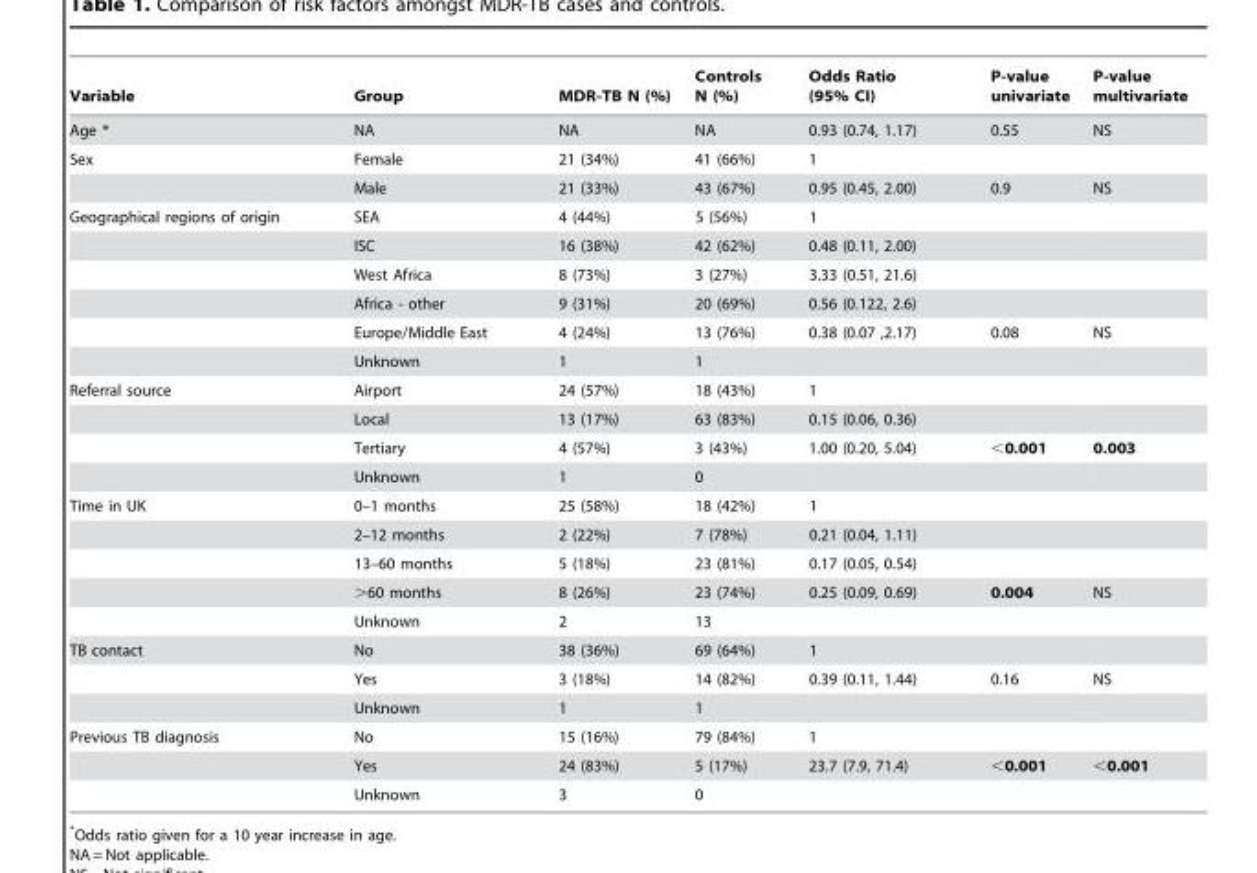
<table><thead><tr><td>Variable</td><td>Group</td><td>MDR-TB N (%)</td><td>Controls N (%)</td><td>Odds Ratio (95% CI)</td><td>P-value univariate</td><td>P-value multivariate</td></tr></thead><tbody><tr><td>Age *</td><td>NA</td><td>NA</td><td>NA</td><td>0.93 (0.74, 1.17)</td><td>0.55</td><td>NS</td></tr><tr><td rowspan="2">Sex</td><td>Female</td><td>21 (34%)</td><td>41 (66%)</td><td>1</td><td></td><td></td></tr><tr><td>Male</td><td>21 (33%)</td><td>43 (67%)</td><td>0.95 (0.45, 2.00)</td><td>0.9</td><td>NS</td></tr><tr><td rowspan="6">Geographical regions of origin</td><td>SEA</td><td>4 (44%)</td><td>5 (56%)</td><td>1</td><td></td><td></td></tr><tr><td>ISC</td><td>16 (38%)</td><td>42 (62%)</td><td>0.48 (0.11, 2.00)</td><td></td><td></td></tr><tr><td>West Africa</td><td>8 (73%)</td><td>3 (27%)</td><td>3.33 (0.51, 21.6)</td><td></td><td></td></tr><tr><td>Africa - other</td><td>9 (31%)</td><td>20 (69%)</td><td>0.56 (0.122, 2.6)</td><td></td><td></td></tr><tr><td>Europe/Middle East</td><td>4 (24%)</td><td>13 (76%)</td><td>0.38 (0.07 ,2.17)</td><td>0.08</td><td>NS</td></tr><tr><td>Unknown</td><td>1</td><td>1</td><td></td><td></td><td></td></tr><tr><td rowspan="4">Referral source</td><td>Airport</td><td>24 (57%)</td><td>18 (43%)</td><td>1</td><td></td><td></td></tr><tr><td>Local</td><td>13 (17%)</td><td>63 (83%)</td><td>0.15 (0.06, 0.36)</td><td></td><td></td></tr><tr><td>Tertiary</td><td>4 (57%)</td><td>3 (43%)</td><td>1.00 (0.20, 5.04)</td><td>&lt;0.001</td><td>0.003</td></tr><tr><td>Unknown</td><td>1</td><td>0</td><td></td><td></td><td></td></tr><tr><td rowspan="5">Time in UK</td><td>0–1 months</td><td>25 (58%)</td><td>18 (42%)</td><td>1</td><td></td><td></td></tr><tr><td>2–12 months</td><td>2 (22%)</td><td>7 (78%)</td><td>0.21 (0.04, 1.11)</td><td></td><td></td></tr><tr><td>13–60 months</td><td>5 (18%)</td><td>23 (81%)</td><td>0.17 (0.05, 0.54)</td><td></td><td></td></tr><tr><td>&gt;60 months</td><td>8 (26%)</td><td>23 (74%)</td><td>0.25 (0.09, 0.69)</td><td>0.004</td><td>NS</td></tr><tr><td>Unknown</td><td>2</td><td>13</td><td></td><td></td><td></td></tr><tr><td rowspan="3">TB contact</td><td>No</td><td>38 (36%)</td><td>69 (64%)</td><td>1</td><td></td><td></td></tr><tr><td>Yes</td><td>3 (18%)</td><td>14 (82%)</td><td>0.39 (0.11, 1.44)</td><td>0.16</td><td>NS</td></tr><tr><td>Unknown</td><td>1</td><td>1</td><td></td><td></td><td></td></tr><tr><td rowspan="3">Previous TB diagnosis</td><td>No</td><td>15 (16%)</td><td>79 (84%)</td><td>1</td><td></td><td></td></tr><tr><td>Yes</td><td>24 (83%)</td><td>5 (17%)</td><td>23.7 (7.9, 71.4)</td><td>&lt;0.001</td><td>&lt;0.001</td></tr><tr><td>Unknown</td><td>3</td><td>0</td><td></td><td></td><td></td></tr></tbody></table>